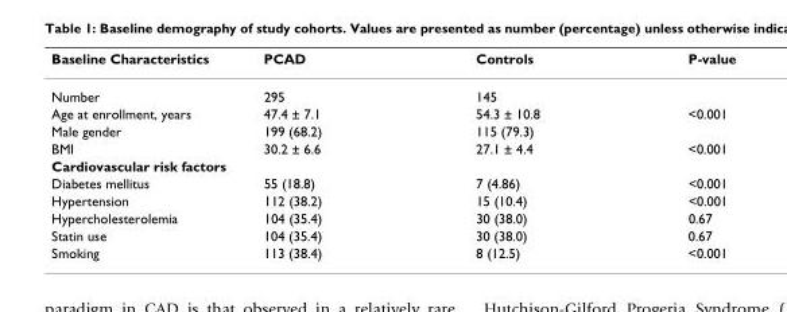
<table><thead><tr><td>Baseline Characteristics</td><td>PCAD</td><td>Controls</td><td>P-value</td></tr></thead><tbody><tr><td>Number</td><td>295</td><td>145</td><td></td></tr><tr><td>Age at enrollment, years</td><td>47.4 ± 7.1</td><td>54.3 ± 10.8</td><td>&lt;0.001</td></tr><tr><td>Male gender</td><td>199 (68.2)</td><td>115 (79.3)</td><td></td></tr><tr><td>BMI</td><td>30.2 ± 6.6</td><td>27.1 ± 4.4</td><td>&lt;0.001</td></tr><tr><td colspan="4">Cardiovascular risk factors</td></tr><tr><td>Diabetes mellitus</td><td>55 (18.8)</td><td>7 (4.86)</td><td>&lt;0.001</td></tr><tr><td>Hypertension</td><td>112 (38.2)</td><td>15 (10.4)</td><td>&lt;0.001</td></tr><tr><td>Hypercholesterolemia</td><td>104 (35.4)</td><td>30 (38.0)</td><td>0.67</td></tr><tr><td>Statin use</td><td>104 (35.4)</td><td>30 (38.0)</td><td>0.67</td></tr><tr><td>Smoking</td><td>113 (38.4)</td><td>8 (12.5)</td><td>&lt;0.001</td></tr></tbody></table>